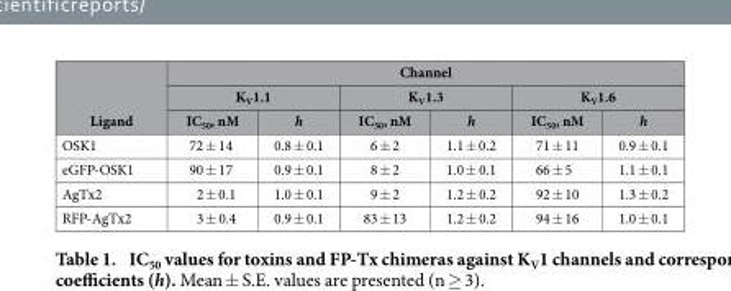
<table><thead><tr><td rowspan="3">Ligand</td><td colspan="6">Channel</td></tr><tr><td colspan="2">K<sub>V</sub>1.1</td><td colspan="2">K<sub>V</sub>1.3</td><td colspan="2">K<sub>V</sub>1.6</td></tr><tr><td>IC<sub>50</sub>, nM</td><td>h</td><td>IC<sub>50</sub>, nM</td><td>h</td><td>IC<sub>50</sub>, nM</td><td>h</td></tr></thead><tbody><tr><td>OSK1</td><td>72 ± 14</td><td>0.8 ± 0.1</td><td>6 ± 2</td><td>1.1 ± 0.2</td><td>71 ± 11</td><td>0.9 ± 0.1</td></tr><tr><td>eGFP-OSK1</td><td>90 ± 17</td><td>0.9 ± 0.1</td><td>8 ± 2</td><td>1.0 ± 0.1</td><td>66 ± 5</td><td>1.1 ± 0.1</td></tr><tr><td>AgTx2</td><td>2 ± 0.1</td><td>1.0 ± 0.1</td><td>9 ± 2</td><td>1.2 ± 0.2</td><td>92 ± 10</td><td>1.3 ± 0.2</td></tr><tr><td>RFP-AgTx2</td><td>3 ± 0.4</td><td>0.9 ± 0.1</td><td>83 ± 13</td><td>1.2 ± 0.2</td><td>94 ± 16</td><td>1.0 ± 0.1</td></tr></tbody></table>